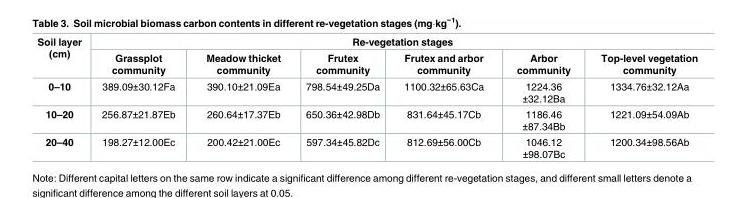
<table><thead><tr><td rowspan="2">Soil layer (cm)</td><td colspan="6">Re-vegetation stages</td></tr><tr><td>Grassplot community</td><td>Meadow thicket community</td><td>Frutex community</td><td>Frutex and arbor community</td><td>Arbor community</td><td>Top-level vegetation community</td></tr></thead><tbody><tr><td>0–10</td><td>389.09±30.12Fa</td><td>390.10±21.09Ea</td><td>798.54±49.25Da</td><td>1100.32±65.63Ca</td><td>1224.36 ±32.12Ba</td><td>1334.76±32.12Aa</td></tr><tr><td>10–20</td><td>256.87±21.87Eb</td><td>260.64±17.37Eb</td><td>650.36±42.98Db</td><td>831.64±45.17Cb</td><td>1186.46 ±87.34Bb</td><td>1221.09±54.09Ab</td></tr><tr><td>20–40</td><td>198.27±12.00Ec</td><td>200.42±21.00Ec</td><td>597.34±45.82Dc</td><td>812.69±56.00Cb</td><td>1046.12 ±98.07Bc</td><td>1200.34±98.56Ab</td></tr></tbody></table>